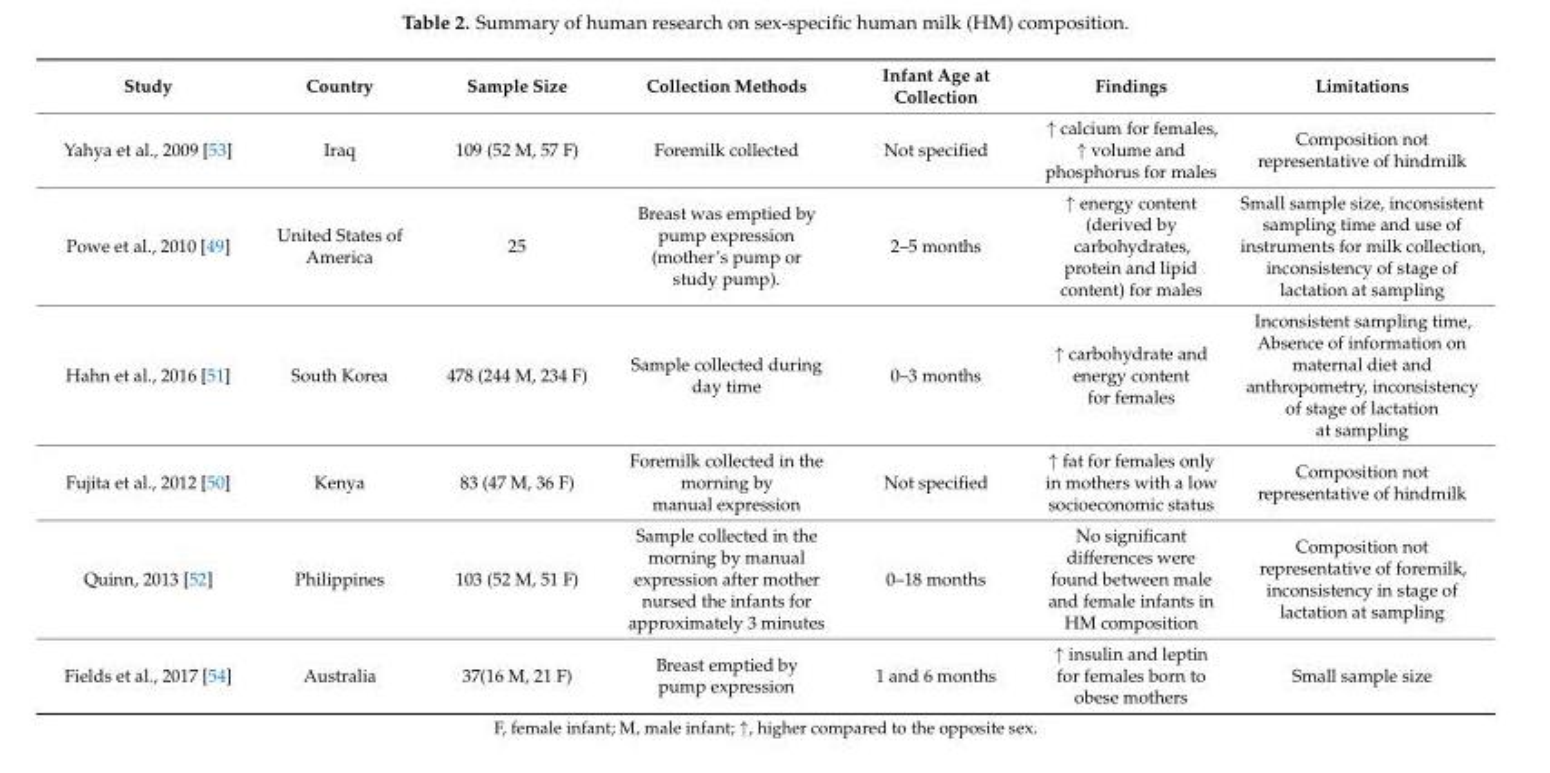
<table><thead><tr><td>Study</td><td>Country</td><td>Sample Size</td><td>Collection Methods</td><td>Infant Age at Collection</td><td>Findings</td><td>Limitations</td></tr></thead><tbody><tr><td>Yahya et al., 2009 [53]</td><td>Iraq</td><td>109 (52 M, 57 F)</td><td>Foremilk collected</td><td>Not specified</td><td>↑ calcium for females, ↑ volume and phosphorus for males</td><td>Composition not representative of hindmilk</td></tr><tr><td>Powe et al., 2010 [49]</td><td>United States of America</td><td>25</td><td>Breast was emptied by pump expression (mother’s pump or study pump).</td><td>2–5 months</td><td>↑ energy content (derived by carbohydrates, protein and lipid content) for males</td><td>Small sample size, inconsistent sampling time and use of instruments for milk collection, inconsistency of stage of lactation at sampling</td></tr><tr><td>Hahn et al., 2016 [51]</td><td>South Korea</td><td>478 (244 M, 234 F)</td><td>Sample collected during day time</td><td>0–3 months</td><td>↑ carbohydrate and energy content for females</td><td>Inconsistent sampling time, Absence of information on maternal diet and anthropometry, inconsistency of stage of lactation at sampling</td></tr><tr><td>Fujita et al., 2012 [50]</td><td>Kenya</td><td>83 (47 M, 36 F)</td><td>Foremilk collected in the morning by manual expression</td><td>Not specified</td><td>↑ fat for females only in mothers with a low socioeconomic status</td><td>Composition not representative of hindmilk</td></tr><tr><td>Quinn, 2013 [52]</td><td>Philippines</td><td>103 (52 M, 51 F)</td><td>Sample collected in the morning by manual expression after mother nursed the infants for approximately 3 minutes</td><td>0–18 months</td><td>No significant differences were found between male and female infants in HM composition</td><td>Composition not representative of foremilk, inconsistency in stage of lactation at sampling</td></tr><tr><td>Fields et al., 2017 [54]</td><td>Australia</td><td>37(16 M, 21 F)</td><td>Breast emptied by pump expression</td><td>1 and 6 months</td><td>↑ insulin and leptin for females born to obese mothers</td><td>Small sample size</td></tr></tbody></table>